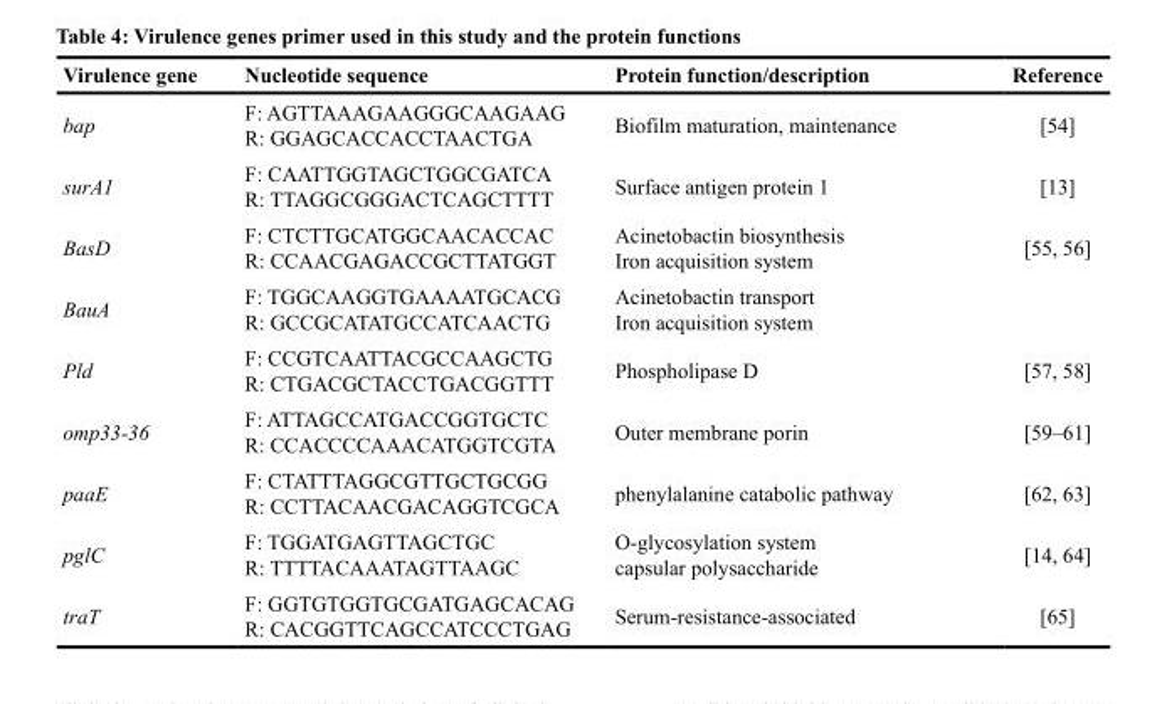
<table><thead><tr><td>Virulence gene</td><td>Nucleotide sequence</td><td>Protein function/description</td><td>Reference</td></tr></thead><tbody><tr><td>bap</td><td>F: AGTTAAAGAAGGGCAAGAAG R: GGAGCACCACCTAACTGA</td><td>Biofilm maturation, maintenance</td><td>[54]</td></tr><tr><td>surA1</td><td>F: CAATTGGTAGCTGGCGATCA R: TTAGGCGGGACTCAGCTTTT</td><td>Surface antigen protein 1</td><td>[13]</td></tr><tr><td>BasD</td><td>F: CTCTTGCATGGCAACACCAC R: CCAACGAGACCGCTTATGGT</td><td>Acinetobactin biosynthesis Iron acquisition system</td><td>[55, 56]</td></tr><tr><td>BauA</td><td>F: TGGCAAGGTGAAAATGCACG R: GCCGCATATGCCATCAACTG</td><td>Acinetobactin transport Iron acquisition system</td><td></td></tr><tr><td>Pld</td><td>F: CCGTCAATTACGCCAAGCTG R: CTGACGCTACCTGACGGTTT</td><td>Phospholipase D</td><td>[57, 58]</td></tr><tr><td>omp33-36</td><td>F: ATTAGCCATGACCGGTGCTC R: CCACCCCAAACATGGTCGTA</td><td>Outer membrane porin</td><td>[59–61]</td></tr><tr><td>paaE</td><td>F: CTATTTAGGCGTTGCTGCGG R: CCTTACAACGACAGGTCGCA</td><td>phenylalanine catabolic pathway</td><td>[62, 63]</td></tr><tr><td>pglC</td><td>F: TGGATGAGTTAGCTGC R: TTTTACAAATAGTTAAGC</td><td>O-glycosylation system capsular polysaccharide</td><td>[14, 64]</td></tr><tr><td>traT</td><td>F: GGTGTGGTGCGATGAGCACAG R: CACGGTTCAGCCATCCCTGAG</td><td>Serum-resistance-associated</td><td>[65]</td></tr></tbody></table>